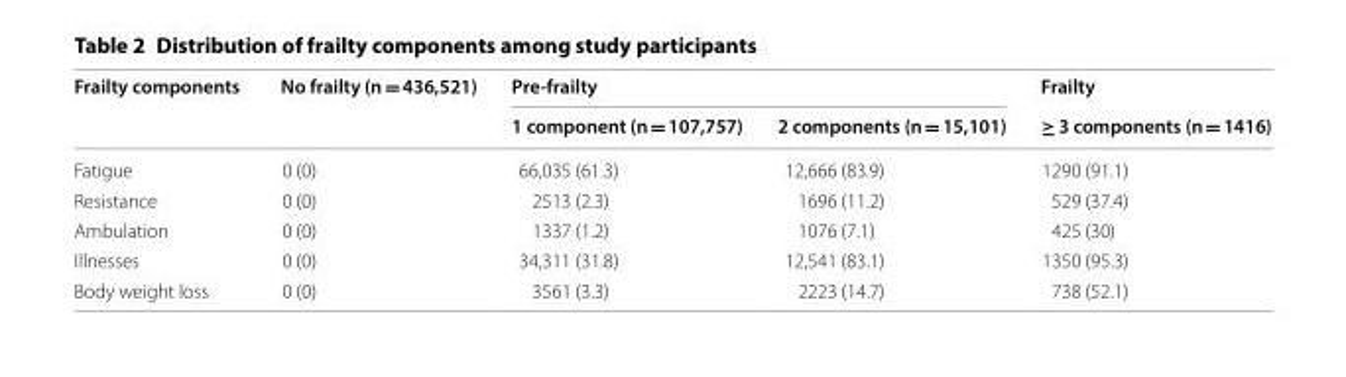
<table><thead><tr><td rowspan="2">Frailty components</td><td rowspan="2">No frailty (n = 436,521)</td><td colspan="2">Pre-frailty</td><td rowspan="2">Frailty ≥ 3 components (n = 1416)</td></tr><tr><td>1 component (n = 107,757)</td><td>2 components (n = 15,101)</td></tr></thead><tbody><tr><td>Fatigue</td><td>0 (0)</td><td>66,035 (61.3)</td><td>12,666 (83.9)</td><td>1290 (91.1)</td></tr><tr><td>Resistance</td><td>0 (0)</td><td>2513 (2.3)</td><td>1696 (11.2)</td><td>529 (37.4)</td></tr><tr><td>Ambulation</td><td>0 (0)</td><td>1337 (1.2)</td><td>1076 (7.1)</td><td>425 (30)</td></tr><tr><td>Illnesses</td><td>0 (0)</td><td>34,311 (31.8)</td><td>12,541 (83.1)</td><td>1350 (95.3)</td></tr><tr><td>Body weight loss</td><td>0 (0)</td><td>3561 (3.3)</td><td>2223 (14.7)</td><td>738 (52.1)</td></tr></tbody></table>